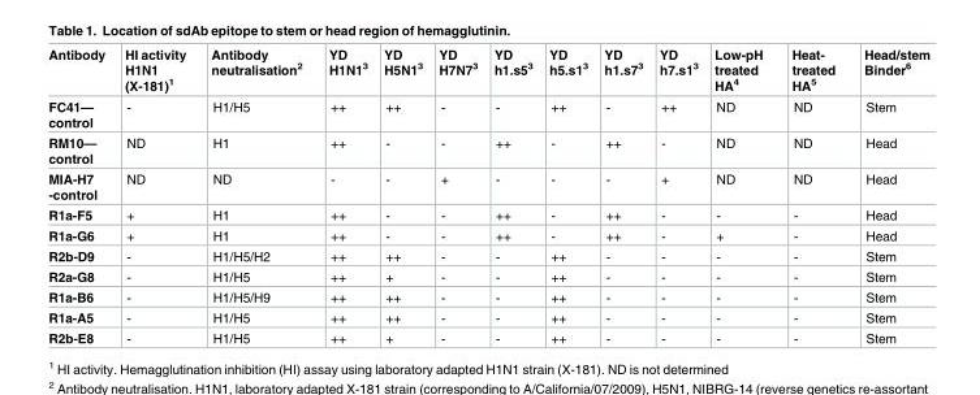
<table><thead><tr><td>Antibody</td><td>HI activity H1N1 (X-181)<sup>1</sup></td><td>Antibody neutralisation<sup>2</sup></td><td>YD H1N1<sup>3</sup></td><td>YD H5N1<sup>3</sup></td><td>YD H7N7<sup>3</sup></td><td>YD h1.s5<sup>3</sup></td><td>YD h5.s1<sup>3</sup></td><td>YD h1.s7<sup>3</sup></td><td>YD h7.s1<sup>3</sup></td><td>Low-pH treated HA<sup>4</sup></td><td>Heat- treated HA<sup>5</sup></td><td>Head/stem Binder<sup>6</sup></td></tr></thead><tbody><tr><td>FC41— control</td><td>-</td><td>H1/H5</td><td>++</td><td>++</td><td>-</td><td>-</td><td>++</td><td>-</td><td>++</td><td>ND</td><td>ND</td><td>Stem</td></tr><tr><td>RM10— control</td><td>ND</td><td>H1</td><td>++</td><td>-</td><td>-</td><td>++</td><td>-</td><td>++</td><td>-</td><td>ND</td><td>ND</td><td>Head</td></tr><tr><td>MIA-H7 -control</td><td>ND</td><td>ND</td><td>-</td><td>-</td><td>+</td><td>-</td><td>-</td><td>-</td><td>+</td><td>ND</td><td>ND</td><td>Head</td></tr><tr><td>R1a-F5</td><td>+</td><td>H1</td><td>++</td><td>-</td><td>-</td><td>++</td><td>-</td><td>++</td><td>-</td><td>-</td><td>-</td><td>Head</td></tr><tr><td>R1a-G6</td><td>+</td><td>H1</td><td>++</td><td>-</td><td>-</td><td>++</td><td>-</td><td>++</td><td>-</td><td>+</td><td>-</td><td>Head</td></tr><tr><td>R2b-D9</td><td>-</td><td>H1/H5/H2</td><td>++</td><td>++</td><td>-</td><td>-</td><td>++</td><td>-</td><td>-</td><td>-</td><td>-</td><td>Stem</td></tr><tr><td>R2a-G8</td><td>-</td><td>H1/H5</td><td>++</td><td>+</td><td>-</td><td>-</td><td>++</td><td>-</td><td>-</td><td>-</td><td>-</td><td>Stem</td></tr><tr><td>R1a-B6</td><td>-</td><td>H1/H5/H9</td><td>++</td><td>++</td><td>-</td><td>-</td><td>++</td><td>-</td><td>-</td><td>-</td><td>-</td><td>Stem</td></tr><tr><td>R1a-A5</td><td>-</td><td>H1/H5</td><td>++</td><td>++</td><td>-</td><td>-</td><td>++</td><td>-</td><td>-</td><td>-</td><td>-</td><td>Stem</td></tr><tr><td>R2b-E8</td><td>-</td><td>H1/H5</td><td>++</td><td>+</td><td>-</td><td>-</td><td>++</td><td>-</td><td>-</td><td>-</td><td>-</td><td>Stem</td></tr></tbody></table>